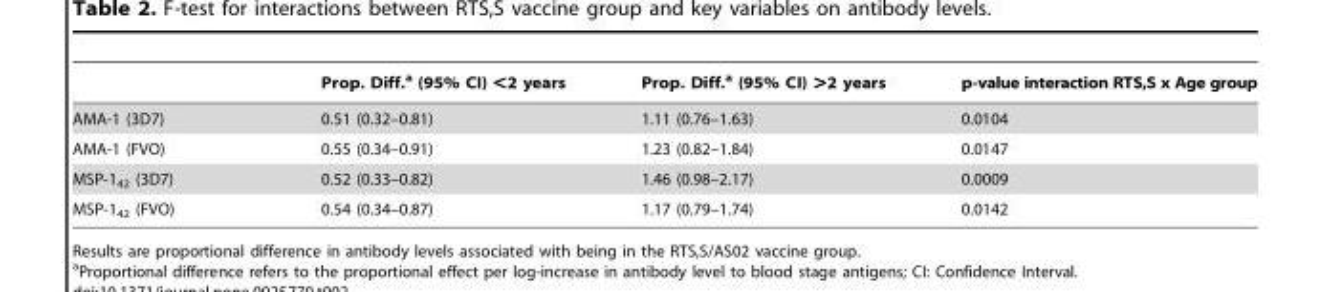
<table><thead><tr><td></td><td>Prop. Diff.<sup>a</sup> (95% CI) &lt;2 years</td><td>Prop. Diff.<sup>a</sup> (95% CI) &gt;2 years</td><td>p-value interaction RTS,S x Age group</td></tr></thead><tbody><tr><td>AMA-1 (3D7)</td><td>0.51 (0.32–0.81)</td><td>1.11 (0.76–1.63)</td><td>0.0104</td></tr><tr><td>AMA-1 (FVO)</td><td>0.55 (0.34–0.91)</td><td>1.23 (0.82–1.84)</td><td>0.0147</td></tr><tr><td>MSP-1<sub>42</sub> (3D7)</td><td>0.52 (0.33–0.82)</td><td>1.46 (0.98–2.17)</td><td>0.0009</td></tr><tr><td>MSP-1<sub>42</sub> (FVO)</td><td>0.54 (0.34–0.87)</td><td>1.17 (0.79–1.74)</td><td>0.0142</td></tr></tbody></table>